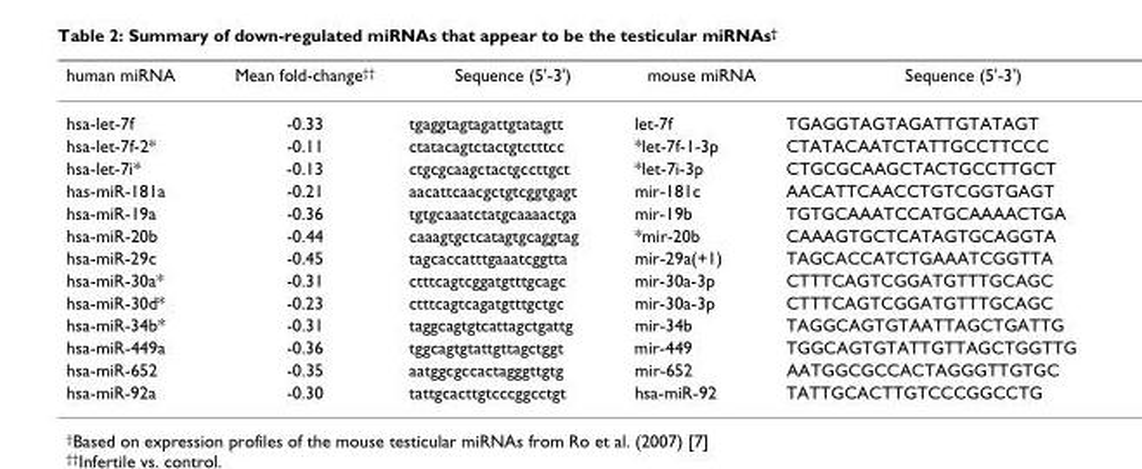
<table><thead><tr><td>human miRNA</td><td>Mean fold-change<sup>††</sup></td><td>Sequence (5&#x27;-3&#x27;)</td><td>mouse miRNA</td><td>Sequence (5&#x27;-3&#x27;)</td></tr></thead><tbody><tr><td>hsa-let-7f</td><td>-0.33</td><td>tgaggtagtagattgtatagtt</td><td>let-7f</td><td>TGAGGTAGTAGATTGTATAGT</td></tr><tr><td>hsa-let-7f-2*</td><td>-0.11</td><td>ctatacagtctactgtctttcc</td><td>*let-7f-1-3p</td><td>CTATACAATCTATTGCCTTCCC</td></tr><tr><td>hsa-let-7i*</td><td>-0.13</td><td>ctgcgcaagctactgccttgct</td><td>*let-7i-3p</td><td>CTGCGCAAGCTACTGCCTTGCT</td></tr><tr><td>has-miR-181a</td><td>-0.21</td><td>aacattcaacgctgtcggtgagt</td><td>mir-181c</td><td>AACATTCAACCTGTCGGTGAGT</td></tr><tr><td>hsa-miR-19a</td><td>-0.36</td><td>tgtgcaaatctatgcaaaactga</td><td>mir-19b</td><td>TGTGCAAATCCATGCAAAACTGA</td></tr><tr><td>hsa-miR-20b</td><td>-0.44</td><td>caaagtgctcatagtgcaggtag</td><td>*mir-20b</td><td>CAAAGTGCTCATAGTGCAGGTA</td></tr><tr><td>hsa-miR-29c</td><td>-0.45</td><td>tagcaccatttgaaatcggtta</td><td>mir-29a(+1)</td><td>TAGCACCATCTGAAATCGGTTA</td></tr><tr><td>hsa-miR-30a*</td><td>-0.31</td><td>ctttcagtcggatgtttgcagc</td><td>mir-30a-3p</td><td>CTTTCAGTCGGATGTTTGCAGC</td></tr><tr><td>hsa-miR-30d*</td><td>-0.23</td><td>ctttcagtcagatgtttgctgc</td><td>mir-30a-3p</td><td>CTTTCAGTCGGATGTTTGCAGC</td></tr><tr><td>hsa-miR-34b*</td><td>-0.31</td><td>taggcagtgtcattagctgattg</td><td>mir-34b</td><td>TAGGCAGTGTAATTAGCTGATTG</td></tr><tr><td>hsa-miR-449a</td><td>-0.36</td><td>tggcagtgtattgttagctggt</td><td>mir-449</td><td>TGGCAGTGTATTGTTAGCTGGTTG</td></tr><tr><td>hsa-miR-652</td><td>-0.35</td><td>aatggcgccactagggttgtg</td><td>mir-652</td><td>AATGGCGCCACTAGGGTTGTGC</td></tr><tr><td>hsa-miR-92a</td><td>-0.30</td><td>tattgcacttgtcccggcctgt</td><td>hsa-miR-92</td><td>TATTGCACTTGTCCCGGCCTG</td></tr></tbody></table>